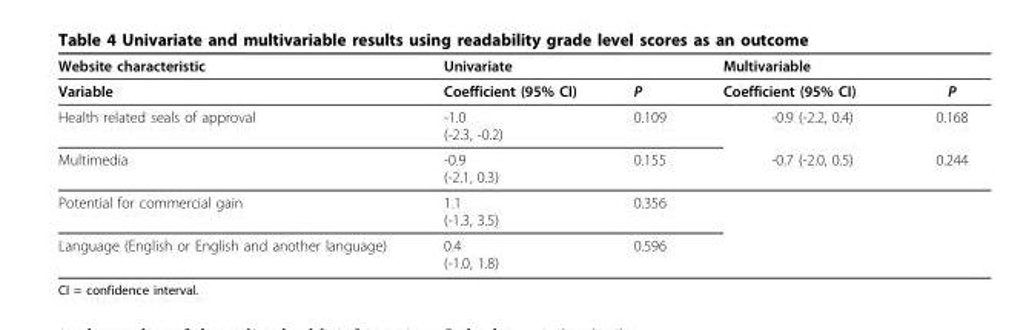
<table><thead><tr><td rowspan="2">Website characteristic Variable</td><td colspan="2">Univariate</td><td colspan="2">Multivariable</td></tr><tr><td>Coefficient (95% CI)</td><td>P</td><td>Coefficient (95% CI)</td><td>P</td></tr></thead><tbody><tr><td>Health related seals of approval</td><td>-1.0 (-2.3, -0.2)</td><td>0.109</td><td>-0.9 (-2.2, 0.4)</td><td>0.168</td></tr><tr><td>Multimedia</td><td>-0.9 (-2.1, 0.3)</td><td>0.155</td><td>-0.7 (-2.0, 0.5)</td><td>0.244</td></tr><tr><td>Potential for commercial gain</td><td>1.1 (-1.3, 3.5)</td><td>0.356</td><td></td><td></td></tr><tr><td>Language (English or English and another language)</td><td>0.4 (-1.0, 1.8)</td><td>0.596</td><td></td><td></td></tr></tbody></table>